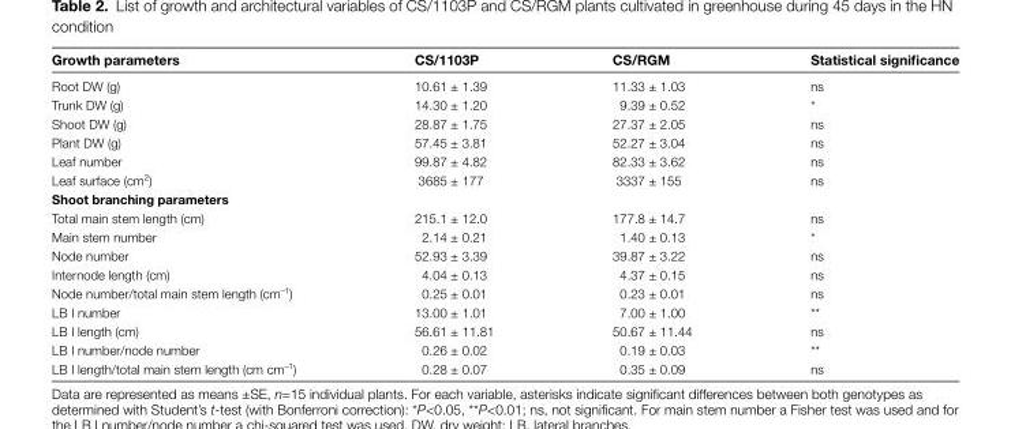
<table><thead><tr><td>Growth parameters</td><td>CS/1103P</td><td>CS/RGM</td><td>Statistical significance</td></tr></thead><tbody><tr><td>Root DW (g)</td><td>10.61 ± 1.39</td><td>11.33 ± 1.03</td><td>ns</td></tr><tr><td>Trunk DW (g)</td><td>14.30 ± 1.20</td><td>9.39 ± 0.52</td><td>*</td></tr><tr><td>Shoot DW (g)</td><td>28.87 ± 1.75</td><td>27.37 ± 2.05</td><td>ns</td></tr><tr><td>Plant DW (g)</td><td>57.45 ± 3.81</td><td>52.27 ± 3.04</td><td>ns</td></tr><tr><td>Leaf number</td><td>99.87 ± 4.82</td><td>82.33 ± 3.62</td><td>ns</td></tr><tr><td>Leaf surface (cm<sup>2</sup>)</td><td>3685 ± 177</td><td>3337 ± 155</td><td>ns</td></tr><tr><td colspan="4">Shoot branching parameters</td></tr><tr><td>Total main stem length (cm)</td><td>215.1 ± 12.0</td><td>177.8 ± 14.7</td><td>ns</td></tr><tr><td>Main stem number</td><td>2.14 ± 0.21</td><td>1.40 ± 0.13</td><td>*</td></tr><tr><td>Node number</td><td>52.93 ± 3.39</td><td>39.87 ± 3.22</td><td>ns</td></tr><tr><td>Internode length (cm)</td><td>4.04 ± 0.13</td><td>4.37 ± 0.15</td><td>ns</td></tr><tr><td>Node number/total main stem length (cm<sup>–1</sup>)</td><td>0.25 ± 0.01</td><td>0.23 ± 0.01</td><td>ns</td></tr><tr><td>LB I number</td><td>13.00 ± 1.01</td><td>7.00 ± 1.00</td><td>**</td></tr><tr><td>LB I length (cm)</td><td>56.61 ± 11.81</td><td>50.67 ± 11.44</td><td>ns</td></tr><tr><td>LB I number/node number</td><td>0.26 ± 0.02</td><td>0.19 ± 0.03</td><td>**</td></tr><tr><td>LB I length/total main stem length (cm cm<sup>–1</sup>)</td><td>0.28 ± 0.07</td><td>0.35 ± 0.09</td><td>ns</td></tr></tbody></table>